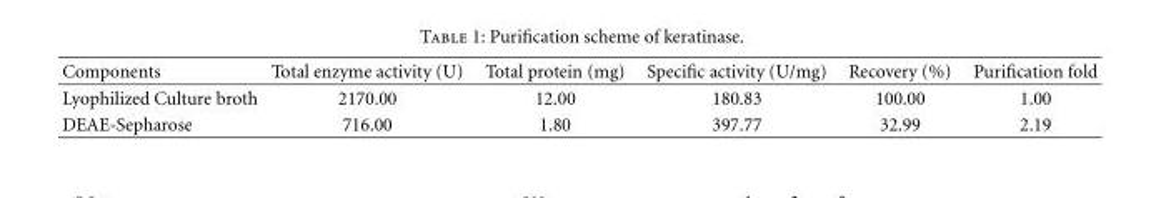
<table><thead><tr><td>Components</td><td>Total enzyme activity (U)</td><td>Total protein (mg)</td><td>Specific activity (U/mg)</td><td>Recovery (%)</td><td>Purification fold</td></tr></thead><tbody><tr><td>Lyophilized Culture broth</td><td>2170.00</td><td>12.00</td><td>180.83</td><td>100.00</td><td>1.00</td></tr><tr><td>DEAE-Sepharose</td><td>716.00</td><td>1.80</td><td>397.77</td><td>32.99</td><td>2.19</td></tr></tbody></table>